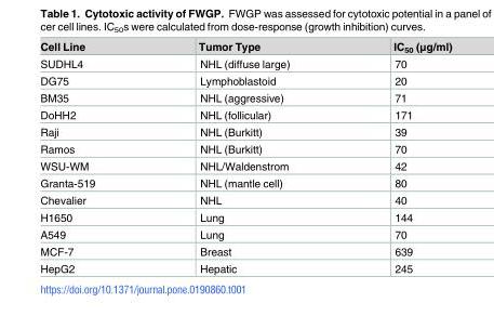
<table><thead><tr><td>Cell Line</td><td>Tumor Type</td><td>IC<sub>50</sub> (μg/ml)</td></tr></thead><tbody><tr><td>SUDHL4</td><td>NHL (diffuse large)</td><td>70</td></tr><tr><td>DG75</td><td>Lymphoblastoid</td><td>20</td></tr><tr><td>BM35</td><td>NHL (aggressive)</td><td>71</td></tr><tr><td>DoHH2</td><td>NHL (follicular)</td><td>171</td></tr><tr><td>Raji</td><td>NHL (Burkitt)</td><td>39</td></tr><tr><td>Ramos</td><td>NHL (Burkitt)</td><td>70</td></tr><tr><td>WSU-WM</td><td>NHL/Waldenstrom</td><td>42</td></tr><tr><td>Granta-519</td><td>NHL (mantle cell)</td><td>80</td></tr><tr><td>Chevalier</td><td>NHL</td><td>40</td></tr><tr><td>H1650</td><td>Lung</td><td>144</td></tr><tr><td>A549</td><td>Lung</td><td>70</td></tr><tr><td>MCF-7</td><td>Breast</td><td>639</td></tr><tr><td>HepG2</td><td>Hepatic</td><td>245</td></tr></tbody></table>